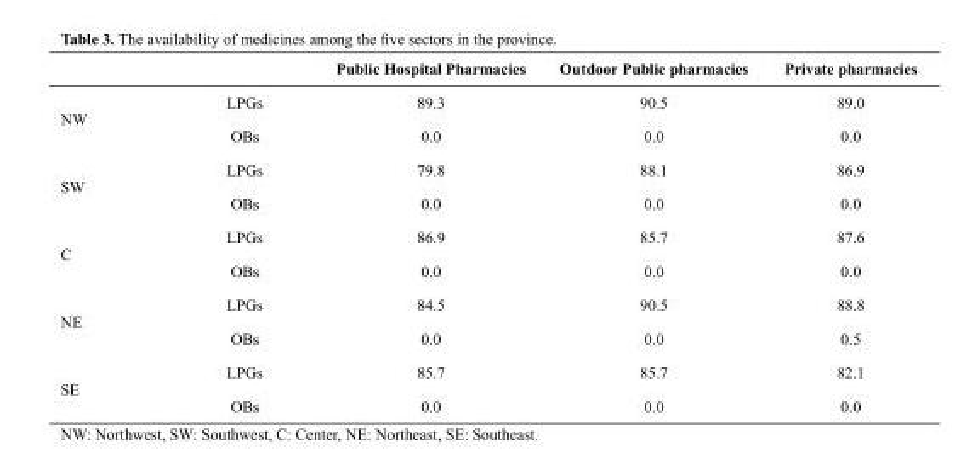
<table><thead><tr><td></td><td></td><td>Public Hospital Pharmacies</td><td>Outdoor Public pharmacies</td><td>Private pharmacies</td></tr></thead><tbody><tr><td rowspan="2">NW</td><td>LPGs</td><td>89.3</td><td>90.5</td><td>89.0</td></tr><tr><td>OBs</td><td>0.0</td><td>0.0</td><td>0.0</td></tr><tr><td rowspan="2">SW</td><td>LPGs</td><td>79.8</td><td>88.1</td><td>86.9</td></tr><tr><td>OBs</td><td>0.0</td><td>0.0</td><td>0.0</td></tr><tr><td rowspan="2">C</td><td>LPGs</td><td>86.9</td><td>85.7</td><td>87.6</td></tr><tr><td>OBs</td><td>0.0</td><td>0.0</td><td>0.0</td></tr><tr><td rowspan="2">NE</td><td>LPGs</td><td>84.5</td><td>90.5</td><td>88.8</td></tr><tr><td>OBs</td><td>0.0</td><td>0.0</td><td>0.5</td></tr><tr><td rowspan="2">SE</td><td>LPGs</td><td>85.7</td><td>85.7</td><td>82.1</td></tr><tr><td>OBs</td><td>0.0</td><td>0.0</td><td>0.0</td></tr></tbody></table>